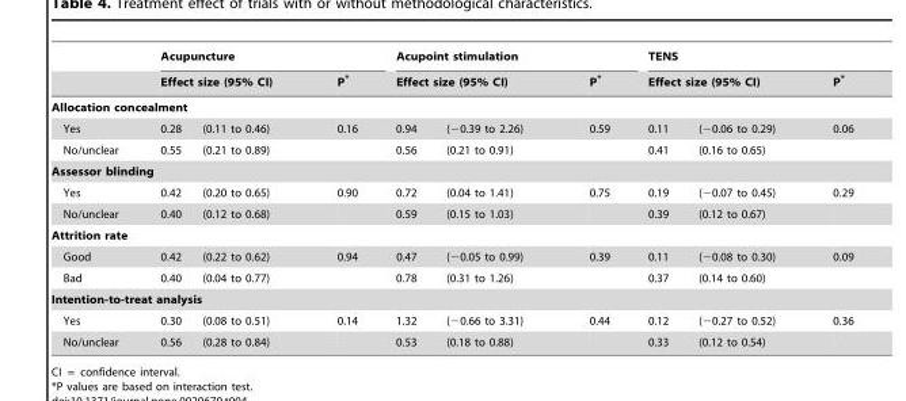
<table><thead><tr><td rowspan="2"></td><td colspan="3">Acupuncture</td><td colspan="3">Acupoint stimulation</td><td colspan="3">TENS</td></tr><tr><td colspan="2">Effect size (95% CI)</td><td>P*</td><td colspan="2">Effect size (95% CI)</td><td>P*</td><td colspan="2">Effect size (95% CI)</td><td>P*</td></tr><tr><td colspan="10">Allocation concealment</td></tr><tr><td>Yes</td><td>0.28</td><td>(0.11 to 0.46)</td><td>0.16</td><td>0.94</td><td>(−0.39 to 2.26)</td><td>0.59</td><td>0.11</td><td>(−0.06 to 0.29)</td><td>0.06</td></tr></thead><tbody><tr><td>No/unclear</td><td>0.55</td><td>(0.21 to 0.89)</td><td></td><td>0.56</td><td>(0.21 to 0.91)</td><td></td><td>0.41</td><td>(0.16 to 0.65)</td><td></td></tr><tr><td colspan="10">Assessor blinding</td></tr><tr><td>Yes</td><td>0.42</td><td>(0.20 to 0.65)</td><td>0.90</td><td>0.72</td><td>(0.04 to 1.41)</td><td>0.75</td><td>0.19</td><td>(−0.07 to 0.45)</td><td>0.29</td></tr><tr><td>No/unclear</td><td>0.40</td><td>(0.12 to 0.68)</td><td></td><td>0.59</td><td>(0.15 to 1.03)</td><td></td><td>0.39</td><td>(0.12 to 0.67)</td><td></td></tr><tr><td colspan="10">Attrition rate</td></tr><tr><td>Good</td><td>0.42</td><td>(0.22 to 0.62)</td><td>0.94</td><td>0.47</td><td>(−0.05 to 0.99)</td><td>0.39</td><td>0.11</td><td>(−0.08 to 0.30)</td><td>0.09</td></tr><tr><td>Bad</td><td>0.40</td><td>(0.04 to 0.77)</td><td></td><td>0.78</td><td>(0.31 to 1.26)</td><td></td><td>0.37</td><td>(0.14 to 0.60)</td><td></td></tr><tr><td colspan="10">Intention-to-treat analysis</td></tr><tr><td>Yes</td><td>0.30</td><td>(0.08 to 0.51)</td><td>0.14</td><td>1.32</td><td>(−0.66 to 3.31)</td><td>0.44</td><td>0.12</td><td>(−0.27 to 0.52)</td><td>0.36</td></tr><tr><td>No/unclear</td><td>0.56</td><td>(0.28 to 0.84)</td><td></td><td>0.53</td><td>(0.18 to 0.88)</td><td></td><td>0.33</td><td>(0.12 to 0.54)</td><td></td></tr></tbody></table>